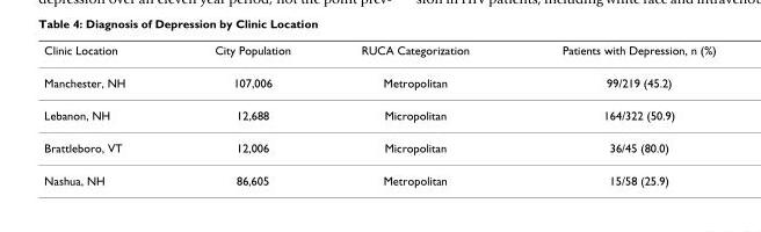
<table><thead><tr><td>Clinic Location</td><td>City Population</td><td>RUCA Categorization</td><td>Patients with Depression, n (%)</td></tr></thead><tbody><tr><td>Manchester, NH</td><td>107,006</td><td>Metropolitan</td><td>99/219 (45.2)</td></tr><tr><td>Lebanon, NH</td><td>12,688</td><td>Micropolitan</td><td>164/322 (50.9)</td></tr><tr><td>Brattleboro, VT</td><td>12,006</td><td>Micropolitan</td><td>36/45 (80.0)</td></tr><tr><td>Nashua, NH</td><td>86,605</td><td>Metropolitan</td><td>15/58 (25.9)</td></tr></tbody></table>